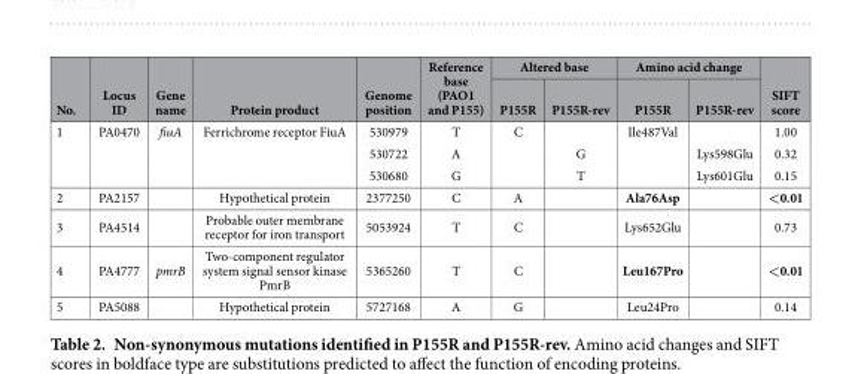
<table><thead><tr><td rowspan="2">No.</td><td rowspan="2">Locus ID</td><td rowspan="2">Gene name</td><td rowspan="2">Protein product</td><td rowspan="2">Genome position</td><td rowspan="2">Reference base (PAO1 and P155)</td><td colspan="2">Altered base</td><td colspan="2">Amino acid change</td><td rowspan="2">SIFT score</td></tr><tr><td>P155R</td><td>P155R-rev</td><td>P155R</td><td>P155R-rev</td></tr></thead><tbody><tr><td rowspan="3">1</td><td>PA0470</td><td>fiuA</td><td>Ferrichrome receptor FiuA</td><td>530979</td><td>T</td><td>C</td><td></td><td>Ile487Val</td><td></td><td>1.00</td></tr><tr><td></td><td></td><td></td><td>530722</td><td>A</td><td></td><td>G</td><td></td><td>Lys598Glu</td><td>0.32</td></tr><tr><td></td><td></td><td></td><td>530680</td><td>G</td><td></td><td>T</td><td></td><td>Lys601Glu</td><td>0.15</td></tr><tr><td>2</td><td>PA2157</td><td></td><td>Hypothetical protein</td><td>2377250</td><td>C</td><td>A</td><td></td><td>Ala76Asp</td><td></td><td>&lt;0.01</td></tr><tr><td>3</td><td>PA4514</td><td></td><td>Probable outer membrane receptor for iron transport</td><td>5053924</td><td>T</td><td>C</td><td></td><td>Lys652Glu</td><td></td><td>0.73</td></tr><tr><td>4</td><td>PA4777</td><td>pmrB</td><td>Two-component regulator system signal sensor kinase PmrB</td><td>5365260</td><td>T</td><td>C</td><td></td><td>Leu167Pro</td><td></td><td>&lt;0.01</td></tr><tr><td>5</td><td>PA5088</td><td></td><td>Hypothetical protein</td><td>5727168</td><td>A</td><td>G</td><td></td><td>Leu24Pro</td><td></td><td>0.14</td></tr></tbody></table>